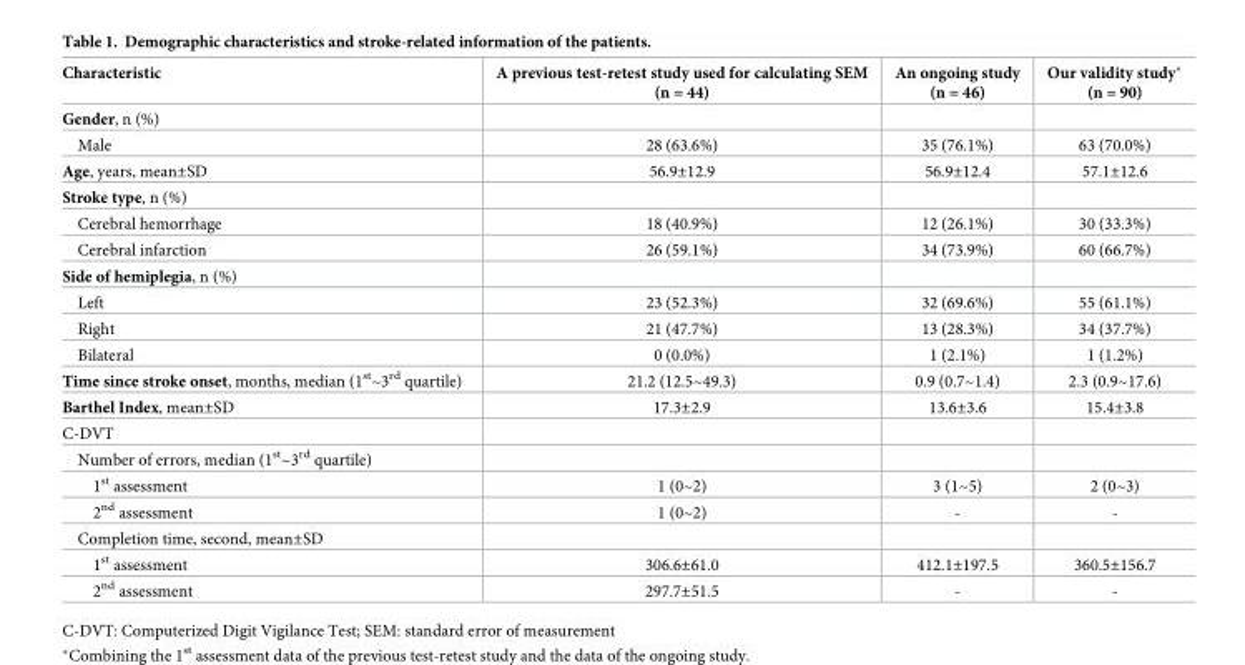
<table><thead><tr><td>Characteristic</td><td>A previous test-retest study used for calculating SEM (n = 44)</td><td>An ongoing study (n = 46)</td><td>Our validity study* (n = 90)</td></tr></thead><tbody><tr><td colspan="4">Gender, n (%)</td></tr><tr><td>Male</td><td>28 (63.6%)</td><td>35 (76.1%)</td><td>63 (70.0%)</td></tr><tr><td>Age, years, mean±SD</td><td>56.9±12.9</td><td>56.9±12.4</td><td>57.1±12.6</td></tr><tr><td colspan="4">Stroke type, n (%)</td></tr><tr><td>Cerebral hemorrhage</td><td>18 (40.9%)</td><td>12 (26.1%)</td><td>30 (33.3%)</td></tr><tr><td>Cerebral infarction</td><td>26 (59.1%)</td><td>34 (73.9%)</td><td>60 (66.7%)</td></tr><tr><td colspan="4">Side of hemiplegia, n (%)</td></tr><tr><td>Left</td><td>23 (52.3%)</td><td>32 (69.6%)</td><td>55 (61.1%)</td></tr><tr><td>Right</td><td>21 (47.7%)</td><td>13 (28.3%)</td><td>34 (37.7%)</td></tr><tr><td>Bilateral</td><td>0 (0.0%)</td><td>1 (2.1%)</td><td>1 (1.2%)</td></tr><tr><td>Time since stroke onset, months, median (1<sup>st</sup>~3<sup>rd</sup> quartile)</td><td>21.2 (12.5~49.3)</td><td>0.9 (0.7~1.4)</td><td>2.3 (0.9~17.6)</td></tr><tr><td>Barthel Index, mean±SD</td><td>17.3±2.9</td><td>13.6±3.6</td><td>15.4±3.8</td></tr><tr><td colspan="4">C-DVT</td></tr><tr><td colspan="4">Number of errors, median (1<sup>st</sup>~3<sup>rd</sup> quartile)</td></tr><tr><td>1<sup>st</sup> assessment</td><td>1 (0~2)</td><td>3 (1~5)</td><td>2 (0~3)</td></tr><tr><td>2<sup>nd</sup> assessment</td><td>1 (0~2)</td><td>-</td><td>-</td></tr><tr><td colspan="4">Completion time, second, mean±SD</td></tr><tr><td>1<sup>st</sup> assessment</td><td>306.6±61.0</td><td>412.1±197.5</td><td>360.5±156.7</td></tr><tr><td>2<sup>nd</sup> assessment</td><td>297.7±51.5</td><td>-</td><td>-</td></tr></tbody></table>